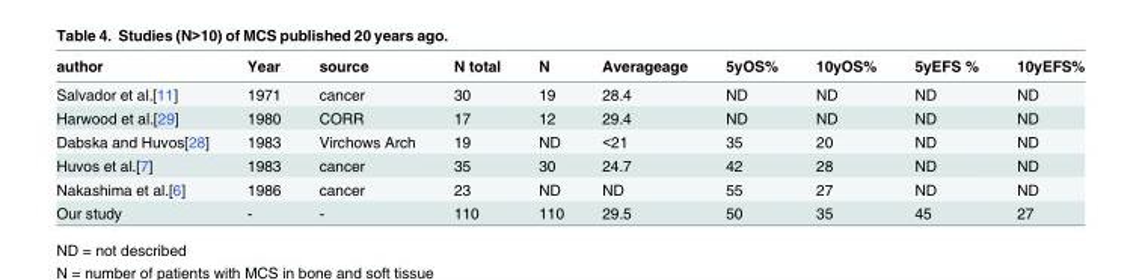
<table><thead><tr><td>author</td><td>Year</td><td>source</td><td>N total</td><td>N</td><td>Averageage</td><td>5yOS%</td><td>10yOS%</td><td>5yEFS %</td><td>10yEFS%</td></tr></thead><tbody><tr><td>Salvador et al.[11]</td><td>1971</td><td>cancer</td><td>30</td><td>19</td><td>28.4</td><td>ND</td><td>ND</td><td>ND</td><td>ND</td></tr><tr><td>Harwood et al.[29]</td><td>1980</td><td>CORR</td><td>17</td><td>12</td><td>29.4</td><td>ND</td><td>ND</td><td>ND</td><td>ND</td></tr><tr><td>Dabska and Huvos[28]</td><td>1983</td><td>Virchows Arch</td><td>19</td><td>ND</td><td>&lt;21</td><td>35</td><td>20</td><td>ND</td><td>ND</td></tr><tr><td>Huvos et al.[7]</td><td>1983</td><td>cancer</td><td>35</td><td>30</td><td>24.7</td><td>42</td><td>28</td><td>ND</td><td>ND</td></tr><tr><td>Nakashima et al.[6]</td><td>1986</td><td>cancer</td><td>23</td><td>ND</td><td>ND</td><td>55</td><td>27</td><td>ND</td><td>ND</td></tr><tr><td>Our study</td><td>-</td><td>-</td><td>110</td><td>110</td><td>29.5</td><td>50</td><td>35</td><td>45</td><td>27</td></tr></tbody></table>